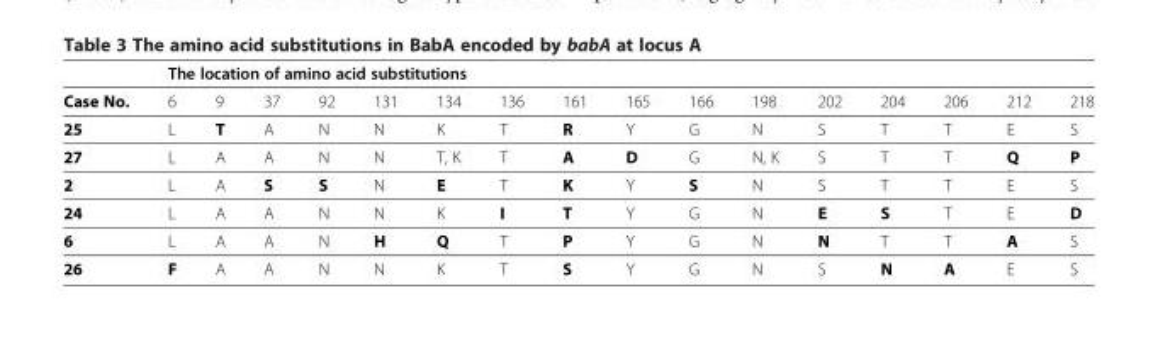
<table><thead><tr><td rowspan="2">Case No.</td><td colspan="16">The location of amino acid substitutions</td></tr><tr><td>6</td><td>9</td><td>37</td><td>92</td><td>131</td><td>134</td><td>136</td><td>161</td><td>165</td><td>166</td><td>198</td><td>202</td><td>204</td><td>206</td><td>212</td><td>218</td></tr></thead><tbody><tr><td>25</td><td>L</td><td>T</td><td>A</td><td>N</td><td>N</td><td>K</td><td>T</td><td>R</td><td>Y</td><td>G</td><td>N</td><td>S</td><td>T</td><td>T</td><td>E</td><td>S</td></tr><tr><td>27</td><td>L</td><td>A</td><td>A</td><td>N</td><td>N</td><td>T, K</td><td>T</td><td>A</td><td>D</td><td>G</td><td>N, K</td><td>S</td><td>T</td><td>T</td><td>Q</td><td>P</td></tr><tr><td>2</td><td>L</td><td>A</td><td>S</td><td>S</td><td>N</td><td>E</td><td>T</td><td>K</td><td>Y</td><td>S</td><td>N</td><td>S</td><td>T</td><td>T</td><td>E</td><td>S</td></tr><tr><td>24</td><td>L</td><td>A</td><td>A</td><td>N</td><td>N</td><td>K</td><td>I</td><td>T</td><td>Y</td><td>G</td><td>N</td><td>E</td><td>S</td><td>T</td><td>E</td><td>D</td></tr><tr><td>6</td><td>L</td><td>A</td><td>A</td><td>N</td><td>H</td><td>Q</td><td>T</td><td>P</td><td>Y</td><td>G</td><td>N</td><td>N</td><td>T</td><td>T</td><td>A</td><td>S</td></tr><tr><td>26</td><td>F</td><td>A</td><td>A</td><td>N</td><td>N</td><td>K</td><td>T</td><td>S</td><td>Y</td><td>G</td><td>N</td><td>S</td><td>N</td><td>A</td><td>E</td><td>S</td></tr></tbody></table>